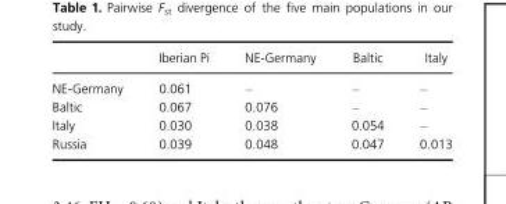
<table><thead><tr><td></td><td>Iberian Pi</td><td>NE-Germany</td><td>Baltic</td><td>Italy</td></tr></thead><tbody><tr><td>NE-Germany</td><td>0.061</td><td>–</td><td>–</td><td>–</td></tr><tr><td>Baltic</td><td>0.067</td><td>0.076</td><td>–</td><td>–</td></tr><tr><td>Italy</td><td>0.030</td><td>0.038</td><td>0.054</td><td>–</td></tr><tr><td>Russia</td><td>0.039</td><td>0.048</td><td>0.047</td><td>0.013</td></tr></tbody></table>